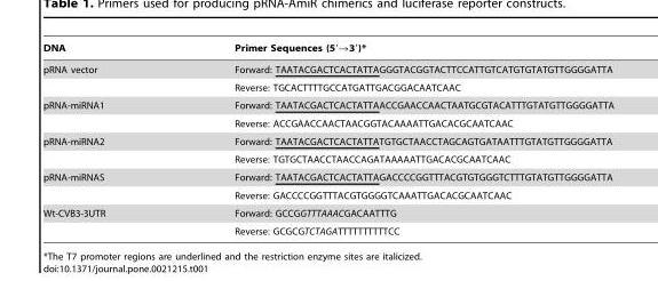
<table><thead><tr><td>DNA</td><td>Primer Sequences (5′→3′)*</td></tr></thead><tbody><tr><td rowspan="2">pRNA vector</td><td>Forward: TAATACGACTCACTATTAGGGTACGGTACTTCCATTGTCATGTGTATGTTGGGGATTA</td></tr><tr><td>Reverse: TGCACTTTTGCCATGATTGACGGACAATCAAC</td></tr><tr><td rowspan="2">pRNA-miRNA1</td><td>Forward: TAATACGACTCACTATTAACCGAACCAACTAATGCGTACATTTGTATGTTGGGGATTA</td></tr><tr><td>Reverse: ACCGAACCAACTAACGGTACAAAATTGACACGCAATCAAC</td></tr><tr><td rowspan="2">pRNA-miRNA2</td><td>Forward: TAATACGACTCACTATTATGTGCTAACCTAGCAGTGATAATTTGTATGTTGGGGATTA</td></tr><tr><td>Reverse: TGTGCTAACCTAACCAGATAAAAATTGACACGCAATCAAC</td></tr><tr><td rowspan="2">pRNA-miRNAS</td><td>Forward: TAATACGACTCACTATTAGACCCCGGTTTACGTGTGGGTCTTTGTATGTTGGGGATTA</td></tr><tr><td>Reverse: GACCCCGGTTTACGTGGGGTCAAATTGACACGCAATCAAC</td></tr><tr><td rowspan="2">Wt-CVB3-3UTR</td><td>Forward: GCCGGTTTAAACGACAATTTG</td></tr><tr><td>Reverse: GCGCGTCTAGATTTTTTTTTTCC</td></tr></tbody></table>